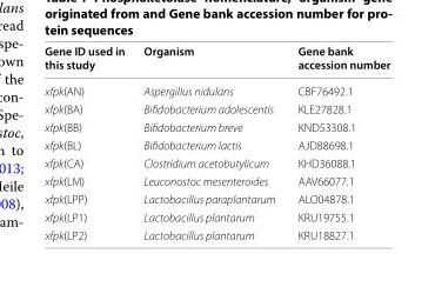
<table><thead><tr><td>Gene ID used in this study</td><td>Organism</td><td>Gene bank accession number</td></tr></thead><tbody><tr><td>xfpk(AN)</td><td>Aspergillus nidulans</td><td>CBF76492.1</td></tr><tr><td>xfpk(BA)</td><td>Bifidobacterium adolescentis</td><td>KLE27828.1</td></tr><tr><td>xfpk(BB)</td><td>Bifidobacterium breve</td><td>KND53308.1</td></tr><tr><td>xfpk(BL)</td><td>Bifidobacterium lactis</td><td>AJD88698.1</td></tr><tr><td>xfpk(CA)</td><td>Clostridium acetobutylicum</td><td>KHD36088.1</td></tr><tr><td>xfpk(LM)</td><td>Leuconostoc mesenteroides</td><td>AAV66077.1</td></tr><tr><td>xfpk(LPP)</td><td>Lactobacillus paraplantarum</td><td>ALO04878.1</td></tr><tr><td>xfpk(LP1)</td><td>Lactobacillus plantarum</td><td>KRU19755.1</td></tr><tr><td>xfpk(LP2)</td><td>Lactobacillus plantarum</td><td>KRU18827.1</td></tr></tbody></table>